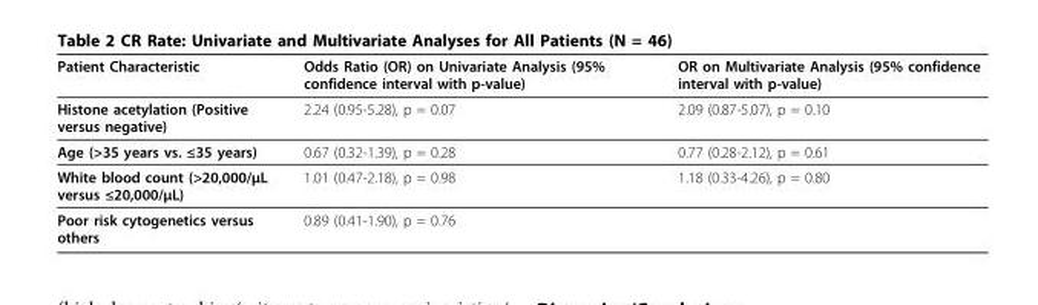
<table><thead><tr><td>Patient Characteristic</td><td>Odds Ratio (OR) on Univariate Analysis (95% confidence interval with p-value)</td><td>OR on Multivariate Analysis (95% confidence interval with p-value)</td></tr></thead><tbody><tr><td>Histone acetylation (Positive versus negative)</td><td>2.24 (0.95-5.28), p = 0.07</td><td>2.09 (0.87-5.07), p = 0.10</td></tr><tr><td>Age (&gt;35 years vs. ≤35 years)</td><td>0.67 (0.32-1.39), p = 0.28</td><td>0.77 (0.28-2.12), p = 0.61</td></tr><tr><td>White blood count (&gt;20,000/μL versus ≤20,000/μL)</td><td>1.01 (0.47-2.18), p = 0.98</td><td>1.18 (0.33-4.26), p = 0.80</td></tr><tr><td>Poor risk cytogenetics versus others</td><td>0.89 (0.41-1.90), p = 0.76</td><td></td></tr></tbody></table>